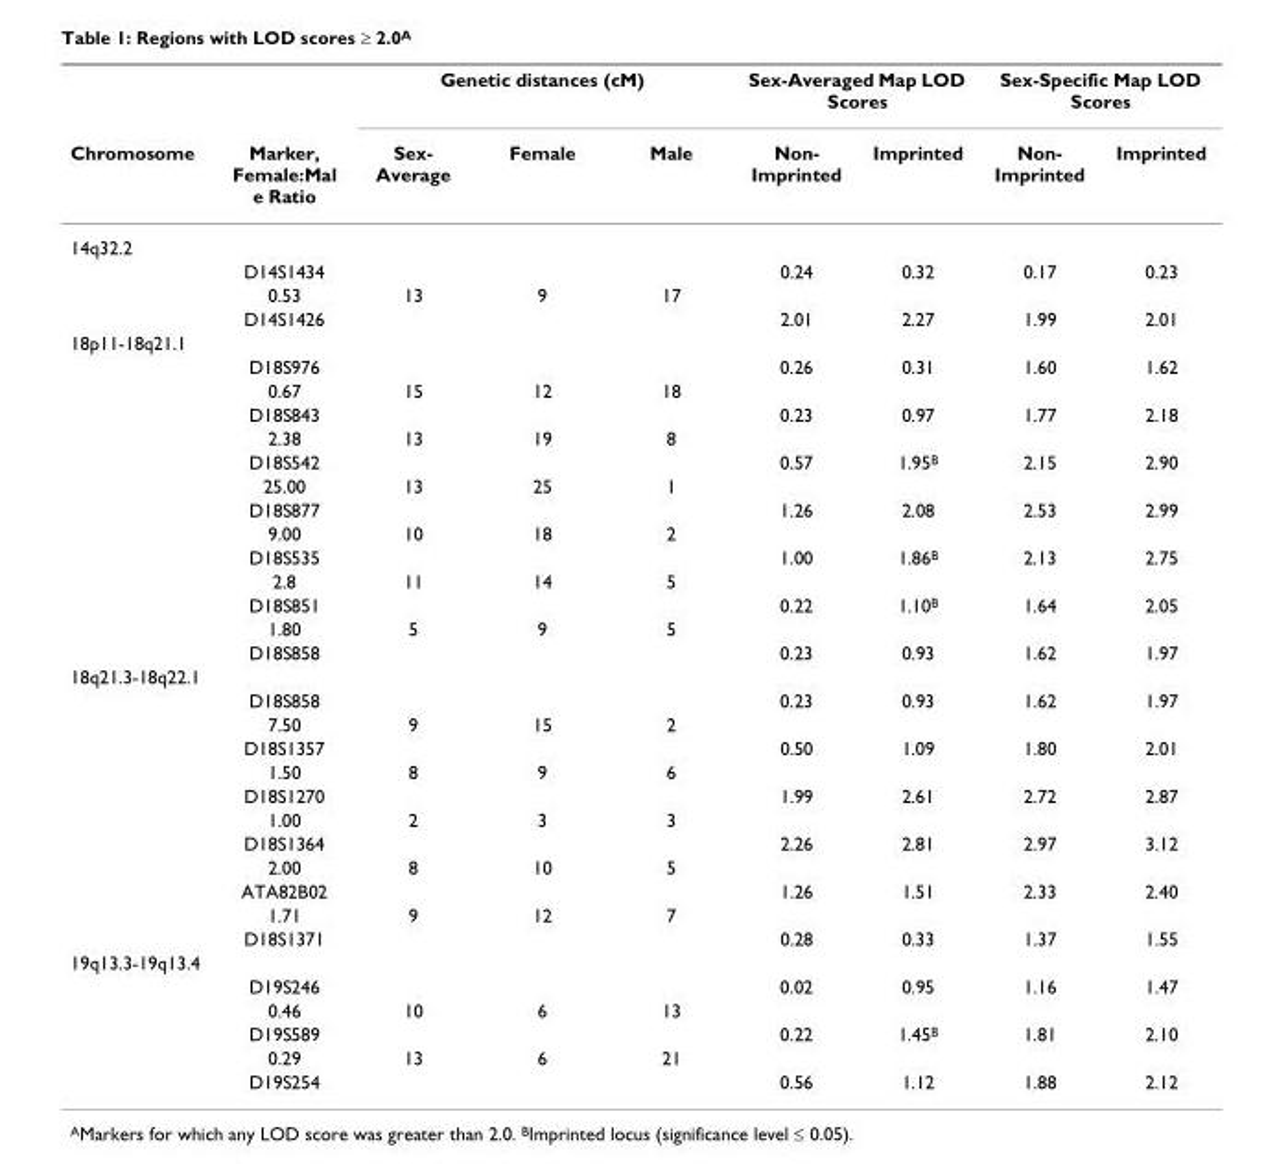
<table><thead><tr><td rowspan="2">Chromosome</td><td rowspan="2">Marker, Female:Mal e Ratio</td><td colspan="3">Genetic distances (cM)</td><td colspan="2">Sex-Averaged Map LOD Scores</td><td colspan="2">Sex-Specific Map LOD Scores</td></tr><tr><td>Sex- Average</td><td>Female</td><td>Male</td><td>Non- Imprinted</td><td>Imprinted</td><td>Non- Imprinted</td><td>Imprinted</td></tr></thead><tbody><tr><td colspan="9">14q32.2</td></tr><tr><td></td><td>D14S1434</td><td></td><td></td><td></td><td>0.24</td><td>0.32</td><td>0.17</td><td>0.23</td></tr><tr><td></td><td>0.53</td><td>13</td><td>9</td><td>17</td><td></td><td></td><td></td><td></td></tr><tr><td></td><td>D14S1426</td><td></td><td></td><td></td><td>2.01</td><td>2.27</td><td>1.99</td><td>2.01</td></tr><tr><td colspan="9">18p11-18q21.1</td></tr><tr><td></td><td>D18S976</td><td></td><td></td><td></td><td>0.26</td><td>0.31</td><td>1.60</td><td>1.62</td></tr><tr><td></td><td>0.67</td><td>15</td><td>12</td><td>18</td><td></td><td></td><td></td><td></td></tr><tr><td></td><td>D18S843</td><td></td><td></td><td></td><td>0.23</td><td>0.97</td><td>1.77</td><td>2.18</td></tr><tr><td></td><td>2.38</td><td>13</td><td>19</td><td>8</td><td></td><td></td><td></td><td></td></tr><tr><td></td><td>D18S542</td><td></td><td></td><td></td><td>0.57</td><td>1.95B</td><td>2.15</td><td>2.90</td></tr><tr><td></td><td>25.00</td><td>13</td><td>25</td><td>1</td><td></td><td></td><td></td><td></td></tr><tr><td></td><td>D18S877</td><td></td><td></td><td></td><td>1.26</td><td>2.08</td><td>2.53</td><td>2.99</td></tr><tr><td></td><td>9.00</td><td>10</td><td>18</td><td>2</td><td></td><td></td><td></td><td></td></tr><tr><td></td><td>D18S535</td><td></td><td></td><td></td><td>1.00</td><td>1.86B</td><td>2.13</td><td>2.75</td></tr><tr><td></td><td>2.8</td><td>11</td><td>14</td><td>5</td><td></td><td></td><td></td><td></td></tr><tr><td></td><td>D18S851</td><td></td><td></td><td></td><td>0.22</td><td>1.10B</td><td>1.64</td><td>2.05</td></tr><tr><td></td><td>1.80</td><td>5</td><td>9</td><td>5</td><td></td><td></td><td></td><td></td></tr><tr><td></td><td>D18S858</td><td></td><td></td><td></td><td>0.23</td><td>0.93</td><td>1.62</td><td>1.97</td></tr><tr><td colspan="9">18q21.3-18q22.1</td></tr><tr><td></td><td>D18S858</td><td></td><td></td><td></td><td>0.23</td><td>0.93</td><td>1.62</td><td>1.97</td></tr><tr><td></td><td>7.50</td><td>9</td><td>15</td><td>2</td><td></td><td></td><td></td><td></td></tr><tr><td></td><td>D18S1357</td><td></td><td></td><td></td><td>0.50</td><td>1.09</td><td>1.80</td><td>2.01</td></tr><tr><td></td><td>1.50</td><td>8</td><td>9</td><td>6</td><td></td><td></td><td></td><td></td></tr><tr><td></td><td>D18S1270</td><td></td><td></td><td></td><td>1.99</td><td>2.61</td><td>2.72</td><td>2.87</td></tr><tr><td></td><td>1.00</td><td>2</td><td>3</td><td>3</td><td></td><td></td><td></td><td></td></tr><tr><td></td><td>D18S1364</td><td></td><td></td><td></td><td>2.26</td><td>2.81</td><td>2.97</td><td>3.12</td></tr><tr><td></td><td>2.00</td><td>8</td><td>10</td><td>5</td><td></td><td></td><td></td><td></td></tr><tr><td></td><td>ATA82B02</td><td></td><td></td><td></td><td>1.26</td><td>1.51</td><td>2.33</td><td>2.40</td></tr><tr><td></td><td>1.71</td><td>9</td><td>12</td><td>7</td><td></td><td></td><td></td><td></td></tr><tr><td></td><td>D18S1371</td><td></td><td></td><td></td><td>0.28</td><td>0.33</td><td>1.37</td><td>1.55</td></tr><tr><td colspan="9">19q13.3-19q13.4</td></tr><tr><td></td><td>D19S246</td><td></td><td></td><td></td><td>0.02</td><td>0.95</td><td>1.16</td><td>1.47</td></tr><tr><td></td><td>0.46</td><td>10</td><td>6</td><td>13</td><td></td><td></td><td></td><td></td></tr><tr><td></td><td>D19S589</td><td></td><td></td><td></td><td>0.22</td><td>1.45B</td><td>1.81</td><td>2.10</td></tr><tr><td></td><td>0.29</td><td>13</td><td>6</td><td>21</td><td></td><td></td><td></td><td></td></tr><tr><td></td><td>D19S254</td><td></td><td></td><td></td><td>0.56</td><td>1.12</td><td>1.88</td><td>2.12</td></tr></tbody></table>